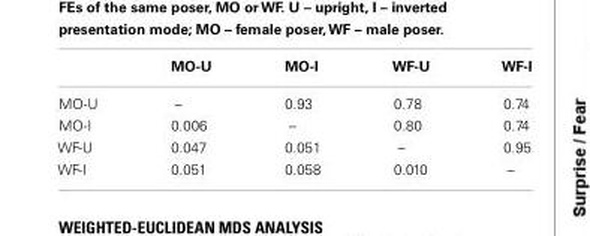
<table><thead><tr><td></td><td>MO-U</td><td>MO-I</td><td>WF-U</td><td>WF-I</td></tr></thead><tbody><tr><td>MO-U</td><td>–</td><td>0.93</td><td>0.78</td><td>0.74</td></tr><tr><td>MO-I</td><td>0.006</td><td>–</td><td>0.80</td><td>0.74</td></tr><tr><td>WF-U</td><td>0.047</td><td>0.051</td><td>–</td><td>0.95</td></tr><tr><td>WF-I</td><td>0.051</td><td>0.058</td><td>0.010</td><td>–</td></tr></tbody></table>